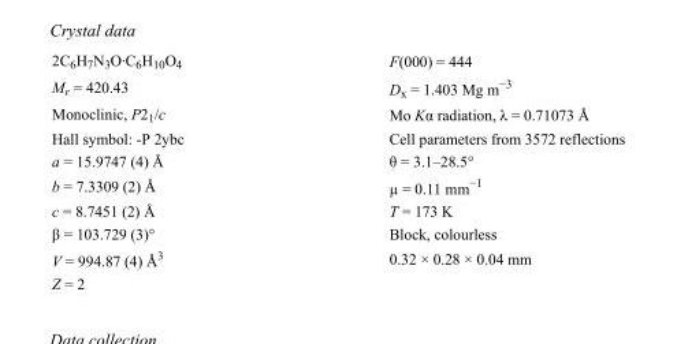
<table><tbody><tr><td>2C<sub>6</sub>H<sub>7</sub>N<sub>3</sub>O·C<sub>6</sub>H<sub>10</sub>O<sub>4</sub></td><td>F(000) = 444</td></tr><tr><td>M<sub>r</sub> = 420.43</td><td>D<sub>x</sub> = 1.403 Mg m<sup>−3</sup></td></tr><tr><td>Monoclinic, P2<sub>1</sub>/c</td><td>Mo Kα radiation, λ = 0.71073 Å</td></tr><tr><td>Hall symbol: -P 2ybc</td><td>Cell parameters from 3572 reflections</td></tr><tr><td>a = 15.9747 (4) Å</td><td>θ = 3.1–28.5°</td></tr><tr><td>b = 7.3309 (2) Å</td><td>µ = 0.11 mm<sup>−1</sup></td></tr><tr><td>c = 8.7451 (2) Å</td><td>T = 173 K</td></tr><tr><td>β = 103.729 (3)°</td><td>Block, colourless</td></tr><tr><td>V = 994.87 (4) Å<sup>3</sup></td><td>0.32 × 0.28 × 0.04 mm</td></tr><tr><td>Z = 2</td><td></td></tr></tbody></table>